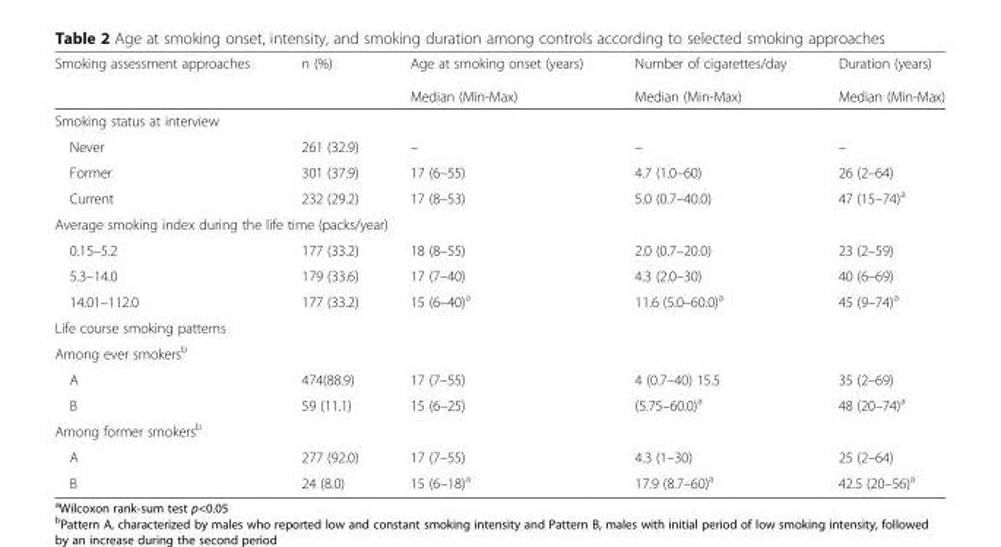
<table><thead><tr><td>Smoking assessment approaches</td><td>n (%)</td><td>Age at smoking onset (years) Median (Min-Max)</td><td>Number of cigarettes/day Median (Min-Max)</td><td>Duration (years) Median (Min-Max)</td></tr></thead><tbody><tr><td colspan="5">Smoking status at interview</td></tr><tr><td>Never</td><td>261 (32.9)</td><td>–</td><td>–</td><td>–</td></tr><tr><td>Former</td><td>301 (37.9)</td><td>17 (6–55)</td><td>4.7 (1.0–60)</td><td>26 (2–64)</td></tr><tr><td>Current</td><td>232 (29.2)</td><td>17 (8–53)</td><td>5.0 (0.7–40.0)</td><td>47 (15–74)<sup>a</sup></td></tr><tr><td colspan="5">Average smoking index during the life time (packs/year)</td></tr><tr><td>0.15–5.2</td><td>177 (33.2)</td><td>18 (8–55)</td><td>2.0 (0.7–20.0)</td><td>23 (2–59)</td></tr><tr><td>5.3–14.0</td><td>179 (33.6)</td><td>17 (7–40)</td><td>4.3 (2.0–30)</td><td>40 (6–69)</td></tr><tr><td>14.01–112.0</td><td>177 (33.2)</td><td>15 (6–40)<sup>a</sup></td><td>11.6 (5.0–60.0)<sup>a</sup></td><td>45 (9–74)<sup>a</sup></td></tr><tr><td colspan="5">Life course smoking patterns</td></tr><tr><td colspan="5">Among ever smokers<sup>b</sup></td></tr><tr><td>A</td><td>474(88.9)</td><td>17 (7–55)</td><td>4 (0.7–40) 15.5</td><td>35 (2–69)</td></tr><tr><td>B</td><td>59 (11.1)</td><td>15 (6–25)</td><td>(5.75–60.0)<sup>a</sup></td><td>48 (20–74)<sup>a</sup></td></tr><tr><td colspan="5">Among former smokers<sup>b</sup></td></tr><tr><td>A</td><td>277 (92.0)</td><td>17 (7–55)</td><td>4.3 (1–30)</td><td>25 (2–64)</td></tr><tr><td>B</td><td>24 (8.0)</td><td>15 (6–18)<sup>a</sup></td><td>17.9 (8.7–60)<sup>a</sup></td><td>42.5 (20–56)<sup>a</sup></td></tr></tbody></table>